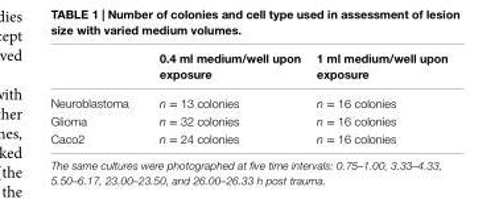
<table><thead><tr><td></td><td>0.4 ml medium/well upon exposure</td><td>1 ml medium/well upon exposure</td></tr></thead><tbody><tr><td>Neuroblastoma</td><td>n = 13 colonies</td><td>n = 16 colonies</td></tr><tr><td>Glioma</td><td>n = 32 colonies</td><td>n = 16 colonies</td></tr><tr><td>Caco2</td><td>n = 24 colonies</td><td>n = 16 colonies</td></tr></tbody></table>